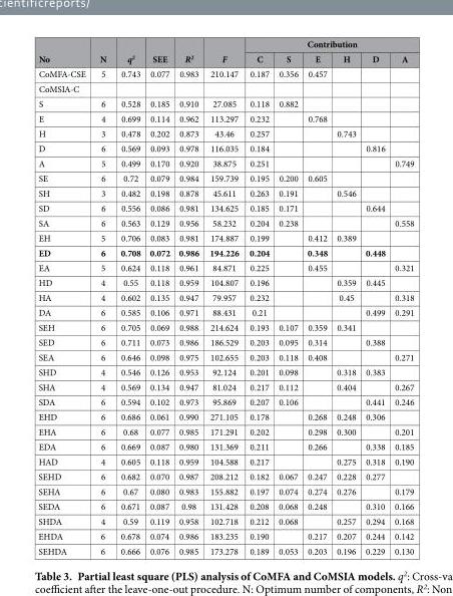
<table><thead><tr><td rowspan="2">No</td><td rowspan="2">N</td><td rowspan="2">q<sup>2</sup></td><td rowspan="2">SEE</td><td rowspan="2">R<sup>2</sup></td><td rowspan="2">F</td><td colspan="6">Contribution</td></tr><tr><td>C</td><td>S</td><td>E</td><td>H</td><td>D</td><td>A</td></tr></thead><tbody><tr><td>CoMFA-CSE</td><td>5</td><td>0.743</td><td>0.077</td><td>0.983</td><td>210.147</td><td>0.187</td><td>0.356</td><td>0.457</td><td></td><td></td><td></td></tr><tr><td colspan="12">CoMSIA-C</td></tr><tr><td>S</td><td>6</td><td>0.528</td><td>0.185</td><td>0.910</td><td>27.085</td><td>0.118</td><td>0.882</td><td></td><td></td><td></td><td></td></tr><tr><td>E</td><td>4</td><td>0.699</td><td>0.114</td><td>0.962</td><td>113.297</td><td>0.232</td><td></td><td>0.768</td><td></td><td></td><td></td></tr><tr><td>H</td><td>3</td><td>0.478</td><td>0.202</td><td>0.873</td><td>43.46</td><td>0.257</td><td></td><td></td><td>0.743</td><td></td><td></td></tr><tr><td>D</td><td>6</td><td>0.569</td><td>0.093</td><td>0.978</td><td>116.035</td><td>0.184</td><td></td><td></td><td></td><td>0.816</td><td></td></tr><tr><td>A</td><td>5</td><td>0.499</td><td>0.170</td><td>0.920</td><td>38.875</td><td>0.251</td><td></td><td></td><td></td><td></td><td>0.749</td></tr><tr><td>SE</td><td>6</td><td>0.72</td><td>0.079</td><td>0.984</td><td>159.739</td><td>0.195</td><td>0.200</td><td>0.605</td><td></td><td></td><td></td></tr><tr><td>SH</td><td>3</td><td>0.482</td><td>0.198</td><td>0.878</td><td>45.611</td><td>0.263</td><td>0.191</td><td></td><td>0.546</td><td></td><td></td></tr><tr><td>SD</td><td>6</td><td>0.556</td><td>0.086</td><td>0.981</td><td>134.625</td><td>0.185</td><td>0.171</td><td></td><td></td><td>0.644</td><td></td></tr><tr><td>SA</td><td>6</td><td>0.563</td><td>0.129</td><td>0.956</td><td>58.232</td><td>0.204</td><td>0.238</td><td></td><td></td><td></td><td>0.558</td></tr><tr><td>EH</td><td>5</td><td>0.706</td><td>0.083</td><td>0.981</td><td>174.887</td><td>0.199</td><td></td><td>0.412</td><td>0.389</td><td></td><td></td></tr><tr><td>ED</td><td>6</td><td>0.708</td><td>0.072</td><td>0.986</td><td>194.226</td><td>0.204</td><td></td><td>0.348</td><td></td><td>0.448</td><td></td></tr><tr><td>EA</td><td>5</td><td>0.624</td><td>0.118</td><td>0.961</td><td>84.871</td><td>0.225</td><td></td><td>0.455</td><td></td><td></td><td>0.321</td></tr><tr><td>HD</td><td>4</td><td>0.55</td><td>0.118</td><td>0.959</td><td>104.807</td><td>0.196</td><td></td><td></td><td>0.359</td><td>0.445</td><td></td></tr><tr><td>HA</td><td>4</td><td>0.602</td><td>0.135</td><td>0.947</td><td>79.957</td><td>0.232</td><td></td><td></td><td>0.45</td><td></td><td>0.318</td></tr><tr><td>DA</td><td>6</td><td>0.585</td><td>0.106</td><td>0.971</td><td>88.431</td><td>0.21</td><td></td><td></td><td></td><td>0.499</td><td>0.291</td></tr><tr><td>SEH</td><td>6</td><td>0.705</td><td>0.069</td><td>0.988</td><td>214.624</td><td>0.193</td><td>0.107</td><td>0.359</td><td>0.341</td><td></td><td></td></tr><tr><td>SED</td><td>6</td><td>0.711</td><td>0.073</td><td>0.986</td><td>186.529</td><td>0.203</td><td>0.095</td><td>0.314</td><td></td><td>0.388</td><td></td></tr><tr><td>SEA</td><td>6</td><td>0.646</td><td>0.098</td><td>0.975</td><td>102.655</td><td>0.203</td><td>0.118</td><td>0.408</td><td></td><td></td><td>0.271</td></tr><tr><td>SHD</td><td>4</td><td>0.546</td><td>0.126</td><td>0.953</td><td>92.124</td><td>0.201</td><td>0.098</td><td></td><td>0.318</td><td>0.383</td><td></td></tr><tr><td>SHA</td><td>4</td><td>0.569</td><td>0.134</td><td>0.947</td><td>81.024</td><td>0.217</td><td>0.112</td><td></td><td>0.404</td><td></td><td>0.267</td></tr><tr><td>SDA</td><td>6</td><td>0.594</td><td>0.102</td><td>0.973</td><td>95.869</td><td>0.207</td><td>0.106</td><td></td><td></td><td>0.441</td><td>0.246</td></tr><tr><td>EHD</td><td>6</td><td>0.686</td><td>0.061</td><td>0.990</td><td>271.105</td><td>0.178</td><td></td><td>0.268</td><td>0.248</td><td>0.306</td><td></td></tr><tr><td>EHA</td><td>6</td><td>0.68</td><td>0.077</td><td>0.985</td><td>171.291</td><td>0.202</td><td></td><td>0.298</td><td>0.300</td><td></td><td>0.201</td></tr><tr><td>EDA</td><td>6</td><td>0.669</td><td>0.087</td><td>0.980</td><td>131.369</td><td>0.211</td><td></td><td>0.266</td><td></td><td>0.338</td><td>0.185</td></tr><tr><td>HAD</td><td>4</td><td>0.605</td><td>0.118</td><td>0.959</td><td>104.588</td><td>0.217</td><td></td><td></td><td>0.275</td><td>0.318</td><td>0.190</td></tr><tr><td>SEHD</td><td>6</td><td>0.682</td><td>0.070</td><td>0.987</td><td>208.212</td><td>0.182</td><td>0.067</td><td>0.247</td><td>0.228</td><td>0.277</td><td></td></tr><tr><td>SEHA</td><td>6</td><td>0.67</td><td>0.080</td><td>0.983</td><td>155.882</td><td>0.197</td><td>0.074</td><td>0.274</td><td>0.276</td><td></td><td>0.179</td></tr><tr><td>SEDA</td><td>6</td><td>0.671</td><td>0.087</td><td>0.98</td><td>131.428</td><td>0.208</td><td>0.068</td><td>0.248</td><td></td><td>0.310</td><td>0.166</td></tr><tr><td>SHDA</td><td>4</td><td>0.59</td><td>0.119</td><td>0.958</td><td>102.718</td><td>0.212</td><td>0.068</td><td></td><td>0.257</td><td>0.294</td><td>0.168</td></tr><tr><td>EHDA</td><td>6</td><td>0.678</td><td>0.074</td><td>0.986</td><td>183.235</td><td>0.190</td><td></td><td>0.217</td><td>0.207</td><td>0.244</td><td>0.142</td></tr><tr><td>SEHDA</td><td>6</td><td>0.666</td><td>0.076</td><td>0.985</td><td>173.278</td><td>0.189</td><td>0.053</td><td>0.203</td><td>0.196</td><td>0.229</td><td>0.130</td></tr></tbody></table>